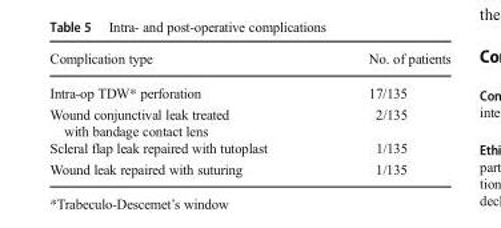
<table><thead><tr><td>Complication type</td><td>No. of patients</td></tr></thead><tbody><tr><td>Intra-op TDW* perforation</td><td>17/135</td></tr><tr><td>Wound conjunctival leak treated with bandage contact lens</td><td>2/135</td></tr><tr><td>Scleral flap leak repaired with tutoplast</td><td>1/135</td></tr><tr><td>Wound leak repaired with suturing</td><td>1/135</td></tr></tbody></table>